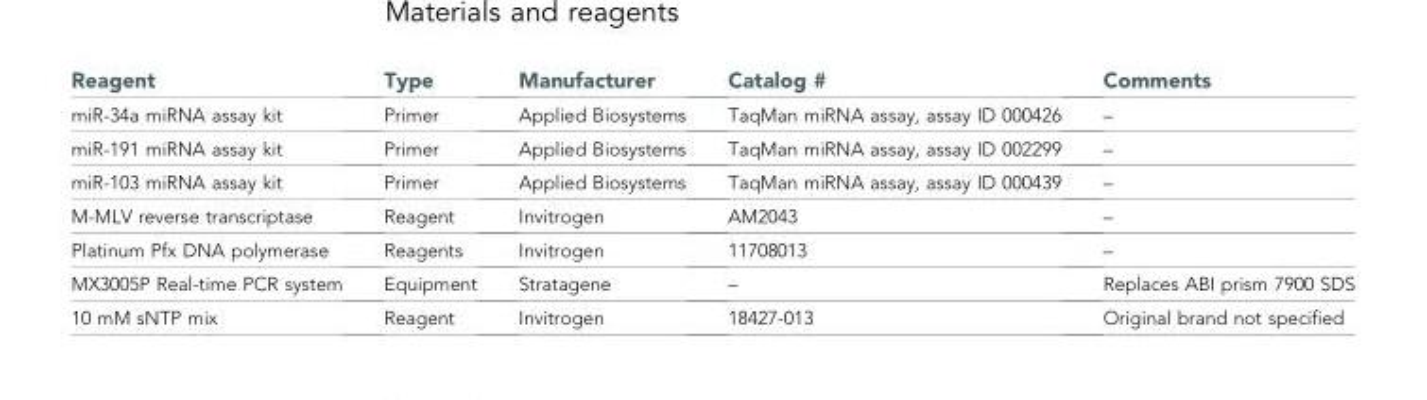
<table><thead><tr><td>Reagent</td><td>Type</td><td>Manufacturer</td><td>Catalog #</td><td>Comments</td></tr></thead><tbody><tr><td>miR-34a miRNA assay kit</td><td>Primer</td><td>Applied Biosystems</td><td>TaqMan miRNA assay, assay ID 000426</td><td>–</td></tr><tr><td>miR-191 miRNA assay kit</td><td>Primer</td><td>Applied Biosystems</td><td>TaqMan miRNA assay, assay ID 002299</td><td>–</td></tr><tr><td>miR-103 miRNA assay kit</td><td>Primer</td><td>Applied Biosystems</td><td>TaqMan miRNA assay, assay ID 000439</td><td>–</td></tr><tr><td>M-MLV reverse transcriptase</td><td>Reagent</td><td>Invitrogen</td><td>AM2043</td><td>–</td></tr><tr><td>Platinum Pfx DNA polymerase</td><td>Reagents</td><td>Invitrogen</td><td>11708013</td><td>–</td></tr><tr><td>MX3005P Real-time PCR system</td><td>Equipment</td><td>Stratagene</td><td>–</td><td>Replaces ABI prism 7900 SDS</td></tr><tr><td>10 mM sNTP mix</td><td>Reagent</td><td>Invitrogen</td><td>18427-013</td><td>Original brand not specified</td></tr></tbody></table>